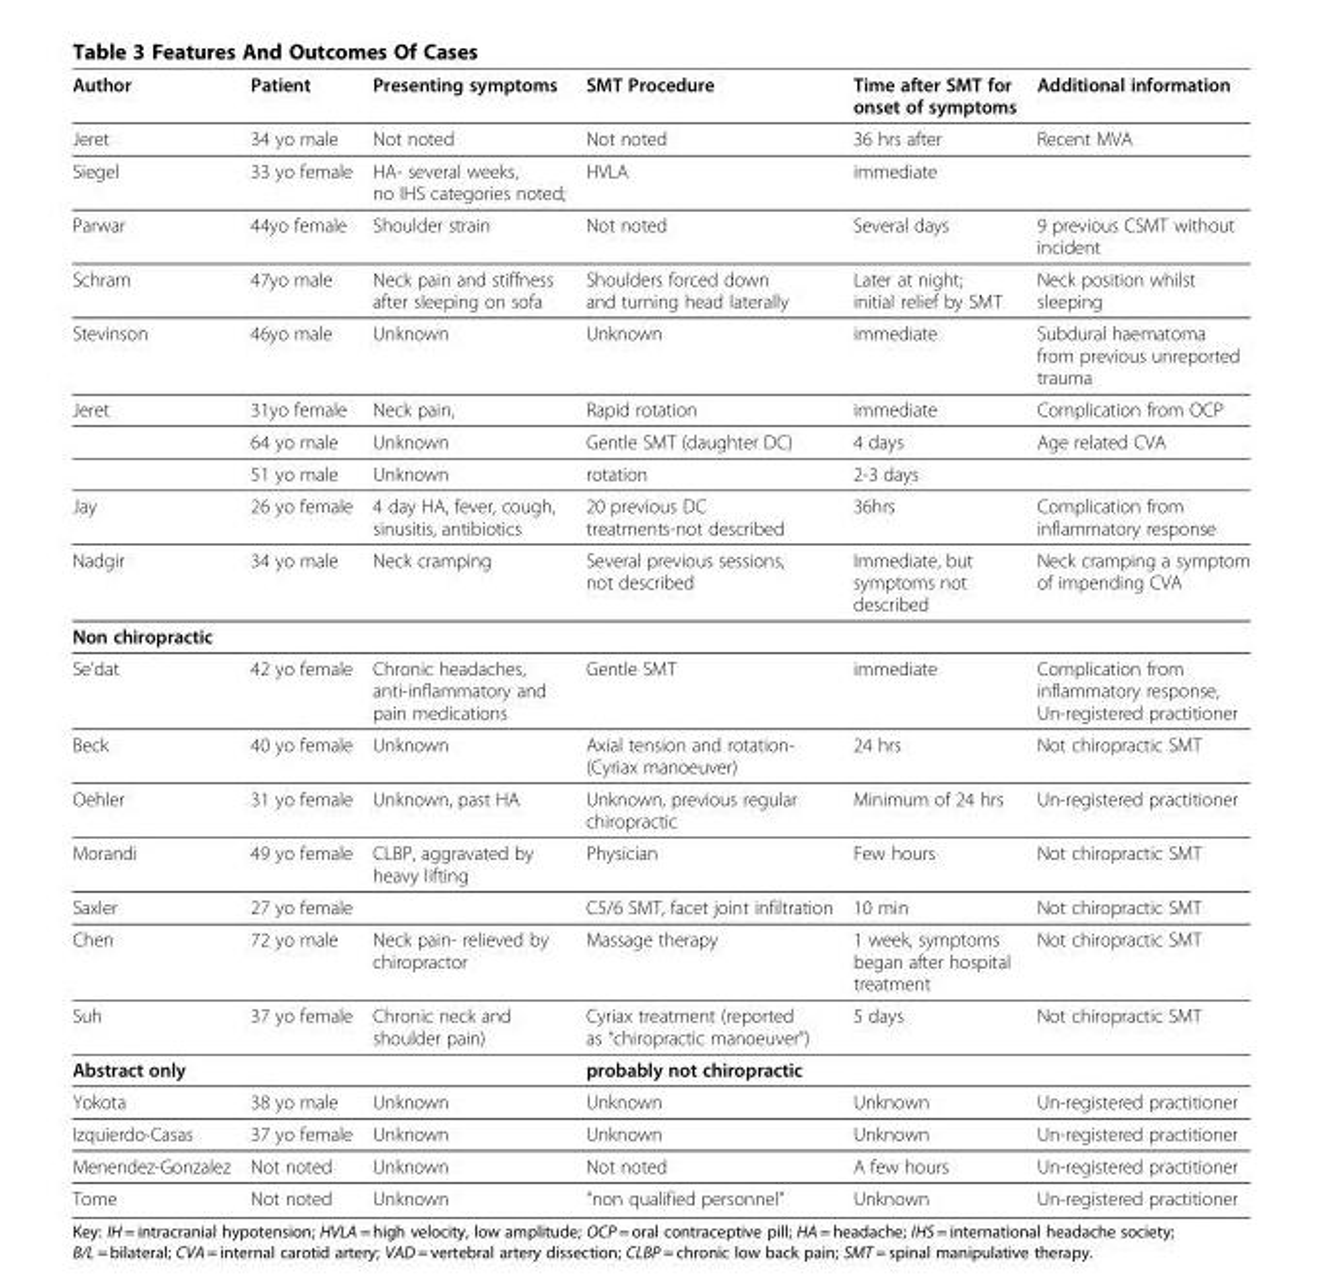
<table><thead><tr><td>Author</td><td>Patient</td><td>Presenting symptoms</td><td>SMT Procedure</td><td>Time after SMT for onset of symptoms</td><td>Additional information</td></tr></thead><tbody><tr><td>Jeret</td><td>34 yo male</td><td>Not noted</td><td>Not noted</td><td>36 hrs after</td><td>Recent MVA</td></tr><tr><td>Siegel</td><td>33 yo female</td><td>HA- several weeks, no IHS categories noted;</td><td>HVLA</td><td>immediate</td><td></td></tr><tr><td>Parwar</td><td>44yo female</td><td>Shoulder strain</td><td>Not noted</td><td>Several days</td><td>9 previous CSMT without incident</td></tr><tr><td>Schram</td><td>47yo male</td><td>Neck pain and stiffness after sleeping on sofa</td><td>Shoulders forced down and turning head laterally</td><td>Later at night; initial relief by SMT</td><td>Neck position whilst sleeping</td></tr><tr><td>Stevinson</td><td>46yo male</td><td>Unknown</td><td>Unknown</td><td>immediate</td><td>Subdural haematoma from previous unreported trauma</td></tr><tr><td rowspan="3">Jeret</td><td>31yo female</td><td>Neck pain,</td><td>Rapid rotation</td><td>immediate</td><td>Complication from OCP</td></tr><tr><td>64 yo male</td><td>Unknown</td><td>Gentle SMT (daughter DC)</td><td>4 days</td><td>Age related CVA</td></tr><tr><td>51 yo male</td><td>Unknown</td><td>rotation</td><td>2-3 days</td><td></td></tr><tr><td>Jay</td><td>26 yo female</td><td>4 day HA, fever, cough, sinusitis, antibiotics</td><td>20 previous DC treatments-not described</td><td>36hrs</td><td>Complication from inflammatory response</td></tr><tr><td>Nadgir</td><td>34 yo male</td><td>Neck cramping</td><td>Several previous sessions, not described</td><td>Immediate, but symptoms not described</td><td>Neck cramping a symptom of impending CVA</td></tr><tr><td colspan="6">Non chiropractic</td></tr><tr><td>Se’dat</td><td>42 yo female</td><td>Chronic headaches, anti-inflammatory and pain medications</td><td>Gentle SMT</td><td>immediate</td><td>Complication from inflammatory response, Un-registered practitioner</td></tr><tr><td>Beck</td><td>40 yo female</td><td>Unknown</td><td>Axial tension and rotation- (Cyriax manoeuver)</td><td>24 hrs</td><td>Not chiropractic SMT</td></tr><tr><td>Oehler</td><td>31 yo female</td><td>Unknown, past HA</td><td>Unknown, previous regular chiropractic</td><td>Minimum of 24 hrs</td><td>Un-registered practitioner</td></tr><tr><td>Morandi</td><td>49 yo female</td><td>CLBP, aggravated by heavy lifting</td><td>Physician</td><td>Few hours</td><td>Not chiropractic SMT</td></tr><tr><td>Saxler</td><td>27 yo female</td><td></td><td>C5/6 SMT, facet joint infiltration</td><td>10 min</td><td>Not chiropractic SMT</td></tr><tr><td>Chen</td><td>72 yo male</td><td>Neck pain- relieved by chiropractor</td><td>Massage therapy</td><td>1 week, symptoms began after hospital treatment</td><td>Not chiropractic SMT</td></tr><tr><td>Suh</td><td>37 yo female</td><td>Chronic neck and shoulder pain)</td><td>Cyriax treatment (reported as “chiropractic manoeuver”)</td><td>5 days</td><td>Not chiropractic SMT</td></tr><tr><td>Abstract only</td><td></td><td></td><td>probably not chiropractic</td><td></td><td></td></tr><tr><td>Yokota</td><td>38 yo male</td><td>Unknown</td><td>Unknown</td><td>Unknown</td><td>Un-registered practitioner</td></tr><tr><td>Izquierdo-Casas</td><td>37 yo female</td><td>Unknown</td><td>Unknown</td><td>Unknown</td><td>Un-registered practitioner</td></tr><tr><td>Menendez-Gonzalez</td><td>Not noted</td><td>Unknown</td><td>Not noted</td><td>A few hours</td><td>Un-registered practitioner</td></tr><tr><td>Tome</td><td>Not noted</td><td>Unknown</td><td>“non qualified personnel”</td><td>Unknown</td><td>Un-registered practitioner</td></tr></tbody></table>